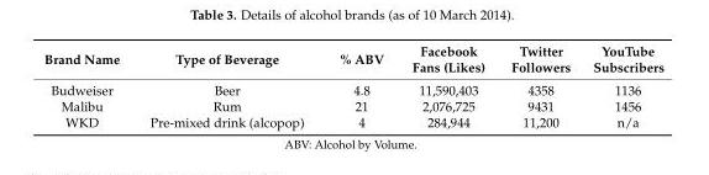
<table><thead><tr><td>Brand Name</td><td>Type of Beverage</td><td>% ABV</td><td>Facebook Fans (Likes)</td><td>Twitter Followers</td><td>YouTube Subscribers</td></tr></thead><tbody><tr><td>Budweiser</td><td>Beer</td><td>4.8</td><td>11,590,403</td><td>4358</td><td>1136</td></tr><tr><td>Malibu</td><td>Rum</td><td>21</td><td>2,076,725</td><td>9431</td><td>1456</td></tr><tr><td>WKD</td><td>Pre-mixed drink (alcopop)</td><td>4</td><td>284,944</td><td>11,200</td><td>n/a</td></tr></tbody></table>